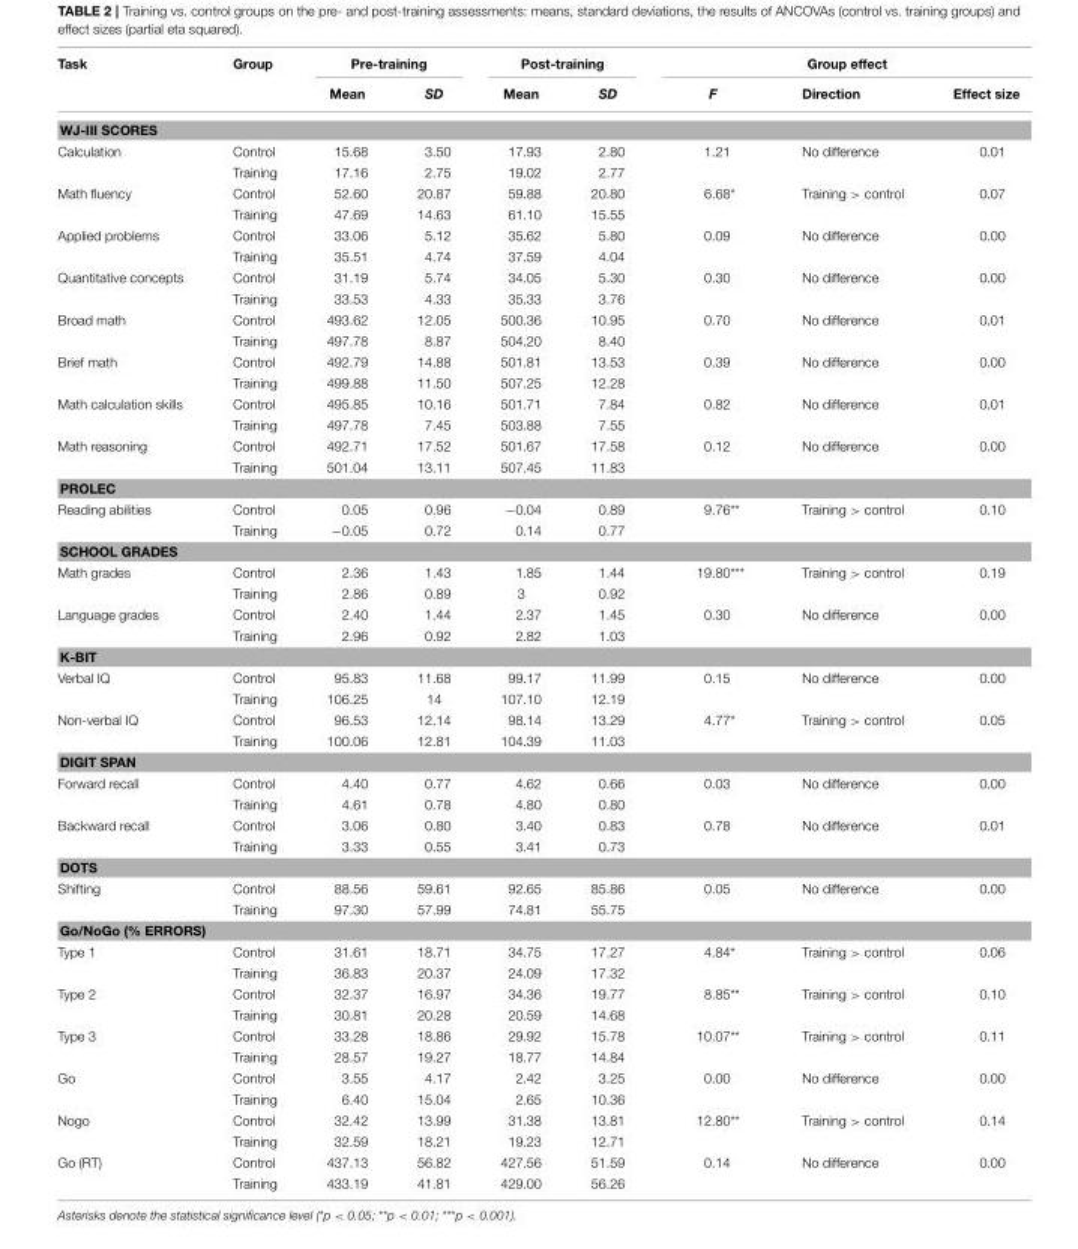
<table><thead><tr><td rowspan="2">Task</td><td rowspan="2">Group</td><td colspan="2">Pre-training</td><td colspan="2">Post-training</td><td colspan="3">Group effect</td></tr><tr><td>Mean</td><td>SD</td><td>Mean</td><td>SD</td><td>F</td><td>Direction</td><td>Effect size</td></tr></thead><tbody><tr><td colspan="9">WJ-III SCORES</td></tr><tr><td rowspan="2">Calculation</td><td>Control</td><td>15.68</td><td>3.50</td><td>17.93</td><td>2.80</td><td>1.21</td><td>No difference</td><td>0.01</td></tr><tr><td>Training</td><td>17.16</td><td>2.75</td><td>19.02</td><td>2.77</td><td></td><td></td><td></td></tr><tr><td rowspan="2">Math fluency</td><td>Control</td><td>52.60</td><td>20.87</td><td>59.88</td><td>20.80</td><td>6.68*</td><td>Training &gt; control</td><td>0.07</td></tr><tr><td>Training</td><td>47.69</td><td>14.63</td><td>61.10</td><td>15.55</td><td></td><td></td><td></td></tr><tr><td rowspan="2">Applied problems</td><td>Control</td><td>33.06</td><td>5.12</td><td>35.62</td><td>5.80</td><td>0.09</td><td>No difference</td><td>0.00</td></tr><tr><td>Training</td><td>35.51</td><td>4.74</td><td>37.59</td><td>4.04</td><td></td><td></td><td></td></tr><tr><td rowspan="2">Quantitative concepts</td><td>Control</td><td>31.19</td><td>5.74</td><td>34.05</td><td>5.30</td><td>0.30</td><td>No difference</td><td>0.00</td></tr><tr><td>Training</td><td>33.53</td><td>4.33</td><td>35.33</td><td>3.76</td><td></td><td></td><td></td></tr><tr><td rowspan="2">Broad math</td><td>Control</td><td>493.62</td><td>12.05</td><td>500.36</td><td>10.95</td><td>0.70</td><td>No difference</td><td>0.01</td></tr><tr><td>Training</td><td>497.78</td><td>8.87</td><td>504.20</td><td>8.40</td><td></td><td></td><td></td></tr><tr><td rowspan="2">Brief math</td><td>Control</td><td>492.79</td><td>14.88</td><td>501.81</td><td>13.53</td><td>0.39</td><td>No difference</td><td>0.00</td></tr><tr><td>Training</td><td>499.88</td><td>11.50</td><td>507.25</td><td>12.28</td><td></td><td></td><td></td></tr><tr><td rowspan="2">Math calculation skills</td><td>Control</td><td>495.85</td><td>10.16</td><td>501.71</td><td>7.84</td><td>0.82</td><td>No difference</td><td>0.01</td></tr><tr><td>Training</td><td>497.78</td><td>7.45</td><td>503.88</td><td>7.55</td><td></td><td></td><td></td></tr><tr><td rowspan="2">Math reasoning</td><td>Control</td><td>492.71</td><td>17.52</td><td>501.67</td><td>17.58</td><td>0.12</td><td>No difference</td><td>0.00</td></tr><tr><td>Training</td><td>501.04</td><td>13.11</td><td>507.45</td><td>11.83</td><td></td><td></td><td></td></tr><tr><td colspan="9">PROLEC</td></tr><tr><td rowspan="2">Reading abilities</td><td>Control</td><td>0.05</td><td>0.96</td><td>−0.04</td><td>0.89</td><td>9.76**</td><td>Training &gt; control</td><td>0.10</td></tr><tr><td>Training</td><td>−0.05</td><td>0.72</td><td>0.14</td><td>0.77</td><td></td><td></td><td></td></tr><tr><td colspan="9">SCHOOL GRADES</td></tr><tr><td rowspan="2">Math grades</td><td>Control</td><td>2.36</td><td>1.43</td><td>1.85</td><td>1.44</td><td>19.80***</td><td>Training &gt; control</td><td>0.19</td></tr><tr><td>Training</td><td>2.86</td><td>0.89</td><td>3</td><td>0.92</td><td></td><td></td><td></td></tr><tr><td rowspan="2">Language grades</td><td>Control</td><td>2.40</td><td>1.44</td><td>2.37</td><td>1.45</td><td>0.30</td><td>No difference</td><td>0.00</td></tr><tr><td>Training</td><td>2.96</td><td>0.92</td><td>2.82</td><td>1.03</td><td></td><td></td><td></td></tr><tr><td colspan="9">K-BIT</td></tr><tr><td rowspan="2">Verbal IQ</td><td>Control</td><td>95.83</td><td>11.68</td><td>99.17</td><td>11.99</td><td>0.15</td><td>No difference</td><td>0.00</td></tr><tr><td>Training</td><td>106.25</td><td>14</td><td>107.10</td><td>12.19</td><td></td><td></td><td></td></tr><tr><td rowspan="2">Non-verbal IQ</td><td>Control</td><td>96.53</td><td>12.14</td><td>98.14</td><td>13.29</td><td>4.77*</td><td>Training &gt; control</td><td>0.05</td></tr><tr><td>Training</td><td>100.06</td><td>12.81</td><td>104.39</td><td>11.03</td><td></td><td></td><td></td></tr><tr><td colspan="9">DIGIT SPAN</td></tr><tr><td rowspan="2">Forward recall</td><td>Control</td><td>4.40</td><td>0.77</td><td>4.62</td><td>0.66</td><td>0.03</td><td>No difference</td><td>0.00</td></tr><tr><td>Training</td><td>4.61</td><td>0.78</td><td>4.80</td><td>0.80</td><td></td><td></td><td></td></tr><tr><td rowspan="2">Backward recall</td><td>Control</td><td>3.06</td><td>0.80</td><td>3.40</td><td>0.83</td><td>0.78</td><td>No difference</td><td>0.01</td></tr><tr><td>Training</td><td>3.33</td><td>0.55</td><td>3.41</td><td>0.73</td><td></td><td></td><td></td></tr><tr><td colspan="9">DOTS</td></tr><tr><td rowspan="2">Shifting</td><td>Control</td><td>88.56</td><td>59.61</td><td>92.65</td><td>85.86</td><td>0.05</td><td>No difference</td><td>0.00</td></tr><tr><td>Training</td><td>97.30</td><td>57.99</td><td>74.81</td><td>55.75</td><td></td><td></td><td></td></tr><tr><td colspan="9">Go/NoGo (% ERRORS)</td></tr><tr><td rowspan="2">Type 1</td><td>Control</td><td>31.61</td><td>18.71</td><td>34.75</td><td>17.27</td><td>4.84*</td><td>Training &gt; control</td><td>0.06</td></tr><tr><td>Training</td><td>36.83</td><td>20.37</td><td>24.09</td><td>17.32</td><td></td><td></td><td></td></tr><tr><td rowspan="2">Type 2</td><td>Control</td><td>32.37</td><td>16.97</td><td>34.36</td><td>19.77</td><td>8.85**</td><td>Training &gt; control</td><td>0.10</td></tr><tr><td>Training</td><td>30.81</td><td>20.28</td><td>20.59</td><td>14.68</td><td></td><td></td><td></td></tr><tr><td rowspan="2">Type 3</td><td>Control</td><td>33.28</td><td>18.86</td><td>29.92</td><td>15.78</td><td>10.07**</td><td>Training &gt; control</td><td>0.11</td></tr><tr><td>Training</td><td>28.57</td><td>19.27</td><td>18.77</td><td>14.84</td><td></td><td></td><td></td></tr><tr><td rowspan="2">Go</td><td>Control</td><td>3.55</td><td>4.17</td><td>2.42</td><td>3.25</td><td>0.00</td><td>No difference</td><td>0.00</td></tr><tr><td>Training</td><td>6.40</td><td>15.04</td><td>2.65</td><td>10.36</td><td></td><td></td><td></td></tr><tr><td rowspan="2">Nogo</td><td>Control</td><td>32.42</td><td>13.99</td><td>31.38</td><td>13.81</td><td>12.80**</td><td>Training &gt; control</td><td>0.14</td></tr><tr><td>Training</td><td>32.59</td><td>18.21</td><td>19.23</td><td>12.71</td><td></td><td></td><td></td></tr><tr><td rowspan="2">Go (RT)</td><td>Control</td><td>437.13</td><td>56.82</td><td>427.56</td><td>51.59</td><td>0.14</td><td>No difference</td><td>0.00</td></tr><tr><td>Training</td><td>433.19</td><td>41.81</td><td>429.00</td><td>56.26</td><td></td><td></td><td></td></tr></tbody></table>